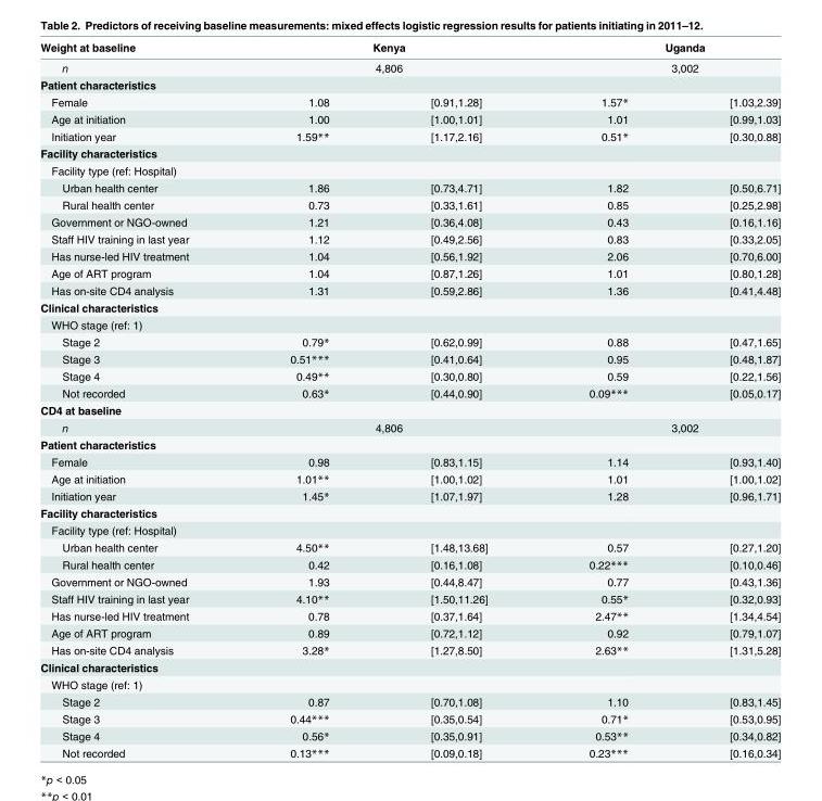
<table><thead><tr><td rowspan="3">Weight at baseline n Patient characteristics</td><td rowspan="2" colspan="2">Kenya 4,806</td><td rowspan="2" colspan="2">Uganda 3,002</td></tr><tr></tr><tr><td></td><td></td><td></td><td></td></tr></thead><tbody><tr><td>Female</td><td>1.08</td><td>[0.91,1.28]</td><td>1.57*</td><td>[1.03,2.39]</td></tr><tr><td>Age at initiation</td><td>1.00</td><td>[1.00,1.01]</td><td>1.01</td><td>[0.99,1.03]</td></tr><tr><td>Initiation year</td><td>1.59**</td><td>[1.17,2.16]</td><td>0.51*</td><td>[0.30,0.88]</td></tr><tr><td colspan="5">Facility characteristics</td></tr><tr><td colspan="5">Facility type (ref: Hospital)</td></tr><tr><td>Urban health center</td><td>1.86</td><td>[0.73,4.71]</td><td>1.82</td><td>[0.50,6.71]</td></tr><tr><td>Rural health center</td><td>0.73</td><td>[0.33,1.61]</td><td>0.85</td><td>[0.25,2.98]</td></tr><tr><td>Government or NGO-owned</td><td>1.21</td><td>[0.36,4.08]</td><td>0.43</td><td>[0.16,1.16]</td></tr><tr><td>Staff HIV training in last year</td><td>1.12</td><td>[0.49,2.56]</td><td>0.83</td><td>[0.33,2.05]</td></tr><tr><td>Has nurse-led HIV treatment</td><td>1.04</td><td>[0.56,1.92]</td><td>2.06</td><td>[0.70,6.00]</td></tr><tr><td>Age of ART program</td><td>1.04</td><td>[0.87,1.26]</td><td>1.01</td><td>[0.80,1.28]</td></tr><tr><td>Has on-site CD4 analysis</td><td>1.31</td><td>[0.59,2.86]</td><td>1.36</td><td>[0.41,4.48]</td></tr><tr><td colspan="5">Clinical characteristics</td></tr><tr><td colspan="5">WHO stage (ref: 1)</td></tr><tr><td>Stage 2</td><td>0.79*</td><td>[0.62,0.99]</td><td>0.88</td><td>[0.47,1.65]</td></tr><tr><td>Stage 3</td><td>0.51***</td><td>[0.41,0.64]</td><td>0.95</td><td>[0.48,1.87]</td></tr><tr><td>Stage 4</td><td>0.49**</td><td>[0.30,0.80]</td><td>0.59</td><td>[0.22,1.56]</td></tr><tr><td>Not recorded</td><td>0.63*</td><td>[0.44,0.90]</td><td>0.09***</td><td>[0.05,0.17]</td></tr><tr><td colspan="5">CD4 at baseline</td></tr><tr><td>n</td><td colspan="2">4,806</td><td colspan="2">3,002</td></tr><tr><td colspan="5">Patient characteristics</td></tr><tr><td>Female</td><td>0.98</td><td>[0.83,1.15]</td><td>1.14</td><td>[0.93,1.40]</td></tr><tr><td>Age at initiation</td><td>1.01**</td><td>[1.00,1.02]</td><td>1.01</td><td>[1.00,1.02]</td></tr><tr><td>Initiation year</td><td>1.45*</td><td>[1.07,1.97]</td><td>1.28</td><td>[0.96,1.71]</td></tr><tr><td colspan="5">Facility characteristics</td></tr><tr><td colspan="5">Facility type (ref: Hospital)</td></tr><tr><td>Urban health center</td><td>4.50**</td><td>[1.48,13.68]</td><td>0.57</td><td>[0.27,1.20]</td></tr><tr><td>Rural health center</td><td>0.42</td><td>[0.16,1.08]</td><td>0.22***</td><td>[0.10,0.46]</td></tr><tr><td>Government or NGO-owned</td><td>1.93</td><td>[0.44,8.47]</td><td>0.77</td><td>[0.43,1.36]</td></tr><tr><td>Staff HIV training in last year</td><td>4.10**</td><td>[1.50,11.26]</td><td>0.55*</td><td>[0.32,0.93]</td></tr><tr><td>Has nurse-led HIV treatment</td><td>0.78</td><td>[0.37,1.64]</td><td>2.47**</td><td>[1.34,4.54]</td></tr><tr><td>Age of ART program</td><td>0.89</td><td>[0.72,1.12]</td><td>0.92</td><td>[0.79,1.07]</td></tr><tr><td>Has on-site CD4 analysis</td><td>3.28*</td><td>[1.27,8.50]</td><td>2.63**</td><td>[1.31,5.28]</td></tr><tr><td colspan="5">Clinical characteristics</td></tr><tr><td colspan="5">WHO stage (ref: 1)</td></tr><tr><td>Stage 2</td><td>0.87</td><td>[0.70,1.08]</td><td>1.10</td><td>[0.83,1.45]</td></tr><tr><td>Stage 3</td><td>0.44***</td><td>[0.35,0.54]</td><td>0.71*</td><td>[0.53,0.95]</td></tr><tr><td>Stage 4</td><td>0.56*</td><td>[0.35,0.91]</td><td>0.53**</td><td>[0.34,0.82]</td></tr><tr><td>Not recorded</td><td>0.13***</td><td>[0.09,0.18]</td><td>0.23***</td><td>[0.16,0.34]</td></tr></tbody></table>